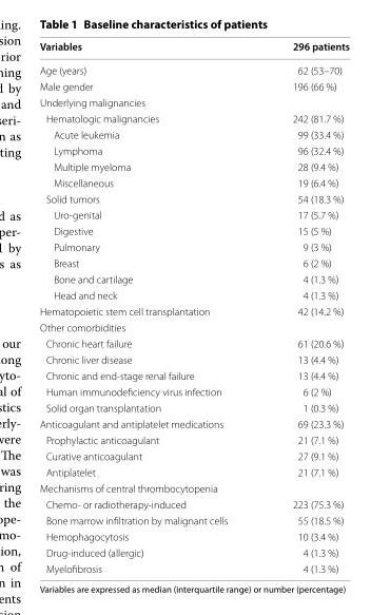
<table><thead><tr><td>Variables</td><td>296 patients</td></tr></thead><tbody><tr><td>Age (years)</td><td>62 (53–70)</td></tr><tr><td>Male gender</td><td>196 (66 %)</td></tr><tr><td colspan="2">Underlying malignancies</td></tr><tr><td>Hematologic malignancies</td><td>242 (81.7 %)</td></tr><tr><td>Acute leukemia</td><td>99 (33.4 %)</td></tr><tr><td>Lymphoma</td><td>96 (32.4 %)</td></tr><tr><td>Multiple myeloma</td><td>28 (9.4 %)</td></tr><tr><td>Miscellaneous</td><td>19 (6.4 %)</td></tr><tr><td>Solid tumors</td><td>54 (18.3 %)</td></tr><tr><td>Uro‑genital</td><td>17 (5.7 %)</td></tr><tr><td>Digestive</td><td>15 (5 %)</td></tr><tr><td>Pulmonary</td><td>9 (3 %)</td></tr><tr><td>Breast</td><td>6 (2 %)</td></tr><tr><td>Bone and cartilage</td><td>4 (1.3 %)</td></tr><tr><td>Head and neck</td><td>4 (1.3 %)</td></tr><tr><td>Hematopoietic stem cell transplantation</td><td>42 (14.2 %)</td></tr><tr><td colspan="2">Other comorbidities</td></tr><tr><td>Chronic heart failure</td><td>61 (20.6 %)</td></tr><tr><td>Chronic liver disease</td><td>13 (4.4 %)</td></tr><tr><td>Chronic and end‑stage renal failure</td><td>13 (4.4 %)</td></tr><tr><td>Human immunodeficiency virus infection</td><td>6 (2 %)</td></tr><tr><td>Solid organ transplantation</td><td>1 (0.3 %)</td></tr><tr><td>Anticoagulant and antiplatelet medications</td><td>69 (23.3 %)</td></tr><tr><td>Prophylactic anticoagulant</td><td>21 (7.1 %)</td></tr><tr><td>Curative anticoagulant</td><td>27 (9.1 %)</td></tr><tr><td>Antiplatelet</td><td>21 (7.1 %)</td></tr><tr><td colspan="2">Mechanisms of central thrombocytopenia</td></tr><tr><td>Chemo‑ or radiotherapy‑induced</td><td>223 (75.3 %)</td></tr><tr><td>Bone marrow infiltration by malignant cells</td><td>55 (18.5 %)</td></tr><tr><td>Hemophagocytosis</td><td>10 (3.4 %)</td></tr><tr><td>Drug‑induced (allergic)</td><td>4 (1.3 %)</td></tr><tr><td>Myelofibrosis</td><td>4 (1.3 %)</td></tr></tbody></table>